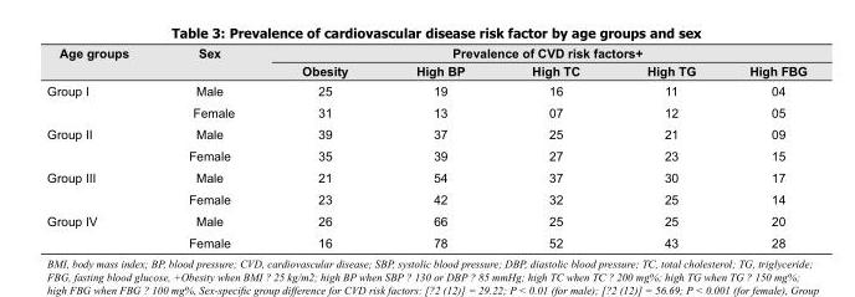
<table><thead><tr><td rowspan="2">Age groups</td><td rowspan="2">Sex</td><td colspan="5">Prevalence of CVD risk factors+</td></tr><tr><td>Obesity</td><td>High BP</td><td>High TC</td><td>High TG</td><td>High FBG</td></tr></thead><tbody><tr><td rowspan="2">Group I</td><td>Male</td><td>25</td><td>19</td><td>16</td><td>11</td><td>04</td></tr><tr><td>Female</td><td>31</td><td>13</td><td>07</td><td>12</td><td>05</td></tr><tr><td rowspan="2">Group II</td><td>Male</td><td>39</td><td>37</td><td>25</td><td>21</td><td>09</td></tr><tr><td>Female</td><td>35</td><td>39</td><td>27</td><td>23</td><td>15</td></tr><tr><td rowspan="2">Group III</td><td>Male</td><td>21</td><td>54</td><td>37</td><td>30</td><td>17</td></tr><tr><td>Female</td><td>23</td><td>42</td><td>32</td><td>25</td><td>14</td></tr><tr><td rowspan="2">Group IV</td><td>Male</td><td>26</td><td>66</td><td>25</td><td>25</td><td>20</td></tr><tr><td>Female</td><td>16</td><td>78</td><td>52</td><td>43</td><td>28</td></tr></tbody></table>